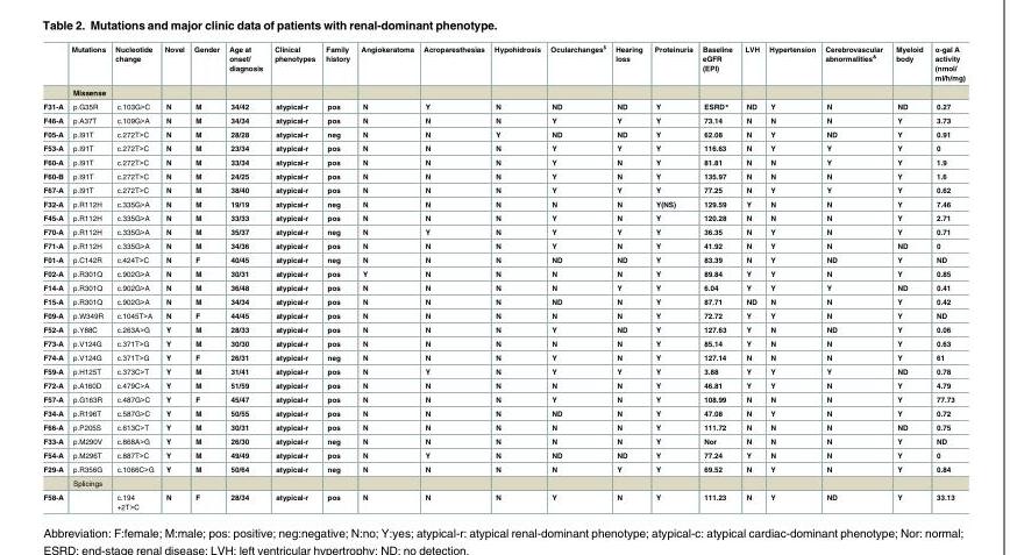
<table><thead><tr><td></td><td>Mutations</td><td>Nucleotide change</td><td>Novel</td><td>Gender</td><td>Age at onset/ diagnosis</td><td>Clinical phenotypes</td><td>Family history</td><td>Angiokeratoma</td><td>Acroparesthesias</td><td>Hypohidrosis</td><td>Ocularchanges<sup>$</sup></td><td>Hearing loss</td><td>Proteinuria</td><td>Baseline eGFR (EPI)</td><td>LVH</td><td>Hypertension</td><td>Cerebrovascular abnormalities<sup>&amp;</sup></td><td>Myeloid body</td><td>α-gal A activity (nmol/ ml/h/mg)</td></tr></thead><tbody><tr><td></td><td>Missense</td><td></td><td></td><td></td><td></td><td></td><td></td><td></td><td></td><td></td><td></td><td></td><td></td><td></td><td></td><td></td><td></td><td></td><td></td></tr><tr><td>F31-A</td><td>p.G35R</td><td>c.103G&gt;C</td><td>N</td><td>M</td><td>34/42</td><td>atypical-r</td><td>pos</td><td>N</td><td>Y</td><td>N</td><td>ND</td><td>ND</td><td>Y</td><td>ESRD*</td><td>ND</td><td>Y</td><td>N</td><td>ND</td><td>0.27</td></tr><tr><td>F46-A</td><td>p.A37T</td><td>c.109G&gt;A</td><td>N</td><td>M</td><td>34/34</td><td>atypical-r</td><td>pos</td><td>N</td><td>N</td><td>N</td><td>Y</td><td>Y</td><td>Y</td><td>73.14</td><td>N</td><td>N</td><td>N</td><td>Y</td><td>3.73</td></tr><tr><td>F05-A</td><td>p.I91T</td><td>c.272T&gt;C</td><td>N</td><td>M</td><td>28/28</td><td>atypical-r</td><td>neg</td><td>N</td><td>N</td><td>Y</td><td>ND</td><td>ND</td><td>Y</td><td>62.08</td><td>N</td><td>Y</td><td>ND</td><td>Y</td><td>0.91</td></tr><tr><td>F53-A</td><td>p.I91T</td><td>c.272T&gt;C</td><td>N</td><td>M</td><td>23/34</td><td>atypical-r</td><td>pos</td><td>N</td><td>N</td><td>N</td><td>Y</td><td>Y</td><td>Y</td><td>116.63</td><td>N</td><td>Y</td><td>Y</td><td>Y</td><td>0</td></tr><tr><td>F60-A</td><td>p.I91T</td><td>c.272T&gt;C</td><td>N</td><td>M</td><td>33/34</td><td>atypical-r</td><td>pos</td><td>N</td><td>N</td><td>N</td><td>Y</td><td>N</td><td>Y</td><td>81.81</td><td>N</td><td>N</td><td>Y</td><td>Y</td><td>1.9</td></tr><tr><td>F60-B</td><td>p.I91T</td><td>c.272T&gt;C</td><td>N</td><td>M</td><td>24/25</td><td>atypical-r</td><td>pos</td><td>N</td><td>N</td><td>N</td><td>Y</td><td>N</td><td>Y</td><td>135.97</td><td>N</td><td>N</td><td>N</td><td>Y</td><td>1.6</td></tr><tr><td>F67-A</td><td>p.I91T</td><td>c.272T&gt;C</td><td>N</td><td>M</td><td>38/40</td><td>atypical-r</td><td>pos</td><td>N</td><td>N</td><td>N</td><td>Y</td><td>Y</td><td>Y</td><td>77.25</td><td>N</td><td>Y</td><td>Y</td><td>Y</td><td>0.62</td></tr><tr><td>F32-A</td><td>p.R112H</td><td>c.335G&gt;A</td><td>N</td><td>M</td><td>19/19</td><td>atypical-r</td><td>neg</td><td>N</td><td>N</td><td>N</td><td>N</td><td>N</td><td>Y(NS)</td><td>129.59</td><td>Y</td><td>N</td><td>N</td><td>Y</td><td>7.46</td></tr><tr><td>F45-A</td><td>p.R112H</td><td>c.335G&gt;A</td><td>N</td><td>M</td><td>33/33</td><td>atypical-r</td><td>pos</td><td>N</td><td>N</td><td>N</td><td>Y</td><td>N</td><td>Y</td><td>120.28</td><td>N</td><td>N</td><td>N</td><td>Y</td><td>2.71</td></tr><tr><td>F70-A</td><td>p.R112H</td><td>c.335G&gt;A</td><td>N</td><td>M</td><td>35/37</td><td>atypical-r</td><td>neg</td><td>N</td><td>Y</td><td>N</td><td>Y</td><td>Y</td><td>Y</td><td>36.35</td><td>N</td><td>Y</td><td>N</td><td>Y</td><td>0.71</td></tr><tr><td>F71-A</td><td>p.R112H</td><td>c.335G&gt;A</td><td>N</td><td>M</td><td>34/36</td><td>atypical-r</td><td>pos</td><td>N</td><td>N</td><td>N</td><td>Y</td><td>N</td><td>Y</td><td>41.92</td><td>N</td><td>Y</td><td>N</td><td>ND</td><td>0</td></tr><tr><td>F01-A</td><td>p.C142R</td><td>c.424T&gt;C</td><td>N</td><td>F</td><td>40/45</td><td>atypical-r</td><td>neg</td><td>N</td><td>N</td><td>N</td><td>ND</td><td>ND</td><td>Y</td><td>83.39</td><td>N</td><td>Y</td><td>ND</td><td>Y</td><td>ND</td></tr><tr><td>F02-A</td><td>p.R301Q</td><td>c.902G&gt;A</td><td>N</td><td>M</td><td>30/31</td><td>atypical-r</td><td>pos</td><td>Y</td><td>N</td><td>N</td><td>N</td><td>N</td><td>Y</td><td>89.84</td><td>Y</td><td>Y</td><td>N</td><td>Y</td><td>0.85</td></tr><tr><td>F14-A</td><td>p.R301Q</td><td>c.902G&gt;A</td><td>N</td><td>M</td><td>36/48</td><td>atypical-r</td><td>pos</td><td>N</td><td>N</td><td>N</td><td>N</td><td>Y</td><td>Y</td><td>6.04</td><td>Y</td><td>Y</td><td>Y</td><td>ND</td><td>0.41</td></tr><tr><td>F15-A</td><td>p.R301Q</td><td>c.902G&gt;A</td><td>N</td><td>M</td><td>34/34</td><td>atypical-r</td><td>pos</td><td>N</td><td>N</td><td>N</td><td>ND</td><td>N</td><td>Y</td><td>87.71</td><td>ND</td><td>N</td><td>N</td><td>Y</td><td>0.42</td></tr><tr><td>F09-A</td><td>p.W349R</td><td>c.1045T&gt;A</td><td>N</td><td>F</td><td>44/45</td><td>atypical-r</td><td>pos</td><td>N</td><td>N</td><td>N</td><td>N</td><td>N</td><td>Y</td><td>72.72</td><td>Y</td><td>Y</td><td>N</td><td>Y</td><td>ND</td></tr><tr><td>F52-A</td><td>p.Y88C</td><td>c.263A&gt;G</td><td>Y</td><td>M</td><td>28/33</td><td>atypical-r</td><td>pos</td><td>N</td><td>N</td><td>N</td><td>Y</td><td>ND</td><td>Y</td><td>127.63</td><td>Y</td><td>N</td><td>ND</td><td>Y</td><td>0.06</td></tr><tr><td>F73-A</td><td>p.V124G</td><td>c.371T&gt;G</td><td>Y</td><td>M</td><td>30/30</td><td>atypical-r</td><td>pos</td><td>N</td><td>N</td><td>N</td><td>N</td><td>N</td><td>Y</td><td>85.14</td><td>Y</td><td>N</td><td>N</td><td>Y</td><td>0.63</td></tr><tr><td>F74-A</td><td>p.V124G</td><td>c.371T&gt;G</td><td>Y</td><td>F</td><td>26/31</td><td>atypical-r</td><td>neg</td><td>N</td><td>N</td><td>N</td><td>Y</td><td>N</td><td>Y</td><td>127.14</td><td>N</td><td>N</td><td>N</td><td>Y</td><td>61</td></tr><tr><td>F59-A</td><td>p.H125T</td><td>c.373C&gt;T</td><td>Y</td><td>M</td><td>31/41</td><td>atypical-r</td><td>pos</td><td>N</td><td>Y</td><td>N</td><td>Y</td><td>Y</td><td>Y</td><td>3.88</td><td>Y</td><td>Y</td><td>Y</td><td>ND</td><td>0.78</td></tr><tr><td>F72-A</td><td>p.A160D</td><td>c.479C&gt;A</td><td>Y</td><td>M</td><td>51/59</td><td>atypical-r</td><td>pos</td><td>N</td><td>N</td><td>N</td><td>N</td><td>N</td><td>Y</td><td>46.81</td><td>Y</td><td>Y</td><td>N</td><td>Y</td><td>4.79</td></tr><tr><td>F57-A</td><td>p.G163R</td><td>c.487G&gt;C</td><td>Y</td><td>F</td><td>45/47</td><td>atypical-r</td><td>pos</td><td>N</td><td>N</td><td>N</td><td>Y</td><td>N</td><td>Y</td><td>108.99</td><td>N</td><td>N</td><td>N</td><td>Y</td><td>77.73</td></tr><tr><td>F34-A</td><td>p.R196T</td><td>c.587G&gt;C</td><td>Y</td><td>M</td><td>50/55</td><td>atypical-r</td><td>pos</td><td>N</td><td>N</td><td>N</td><td>ND</td><td>N</td><td>Y</td><td>47.08</td><td>N</td><td>Y</td><td>N</td><td>Y</td><td>0.72</td></tr><tr><td>F66-A</td><td>p.P205S</td><td>c.613C&gt;T</td><td>Y</td><td>M</td><td>30/31</td><td>atypical-r</td><td>pos</td><td>N</td><td>N</td><td>N</td><td>N</td><td>N</td><td>Y</td><td>111.72</td><td>N</td><td>N</td><td>N</td><td>ND</td><td>0.75</td></tr><tr><td>F33-A</td><td>p.M290V</td><td>c.868A&gt;G</td><td>Y</td><td>M</td><td>26/30</td><td>atypical-r</td><td>neg</td><td>N</td><td>N</td><td>N</td><td>N</td><td>N</td><td>Y</td><td>Nor</td><td>N</td><td>N</td><td>N</td><td>Y</td><td>ND</td></tr><tr><td>F54-A</td><td>p.M296T</td><td>c.887T&gt;C</td><td>Y</td><td>M</td><td>49/49</td><td>atypical-r</td><td>pos</td><td>N</td><td>Y</td><td>N</td><td>ND</td><td>ND</td><td>Y</td><td>77.24</td><td>Y</td><td>N</td><td>N</td><td>Y</td><td>0</td></tr><tr><td rowspan="2">F29-A</td><td>p.R356G</td><td>c.1066C&gt;G</td><td>Y</td><td>M</td><td>50/64</td><td>atypical-r</td><td>neg</td><td>N</td><td>N</td><td>N</td><td>N</td><td>Y</td><td>Y</td><td>69.52</td><td>N</td><td>Y</td><td>N</td><td>Y</td><td>0.84</td></tr><tr><td>Splicings</td><td></td><td></td><td></td><td></td><td></td><td></td><td></td><td></td><td></td><td></td><td></td><td></td><td></td><td></td><td></td><td></td><td></td><td></td></tr><tr><td>F58-A</td><td></td><td>c.194 +2T&gt;C</td><td>N</td><td>F</td><td>28/34</td><td>atypical-r</td><td>pos</td><td>N</td><td>N</td><td>N</td><td>Y</td><td>N</td><td>Y</td><td>111.23</td><td>N</td><td>Y</td><td>ND</td><td>Y</td><td>33.13</td></tr></tbody></table>